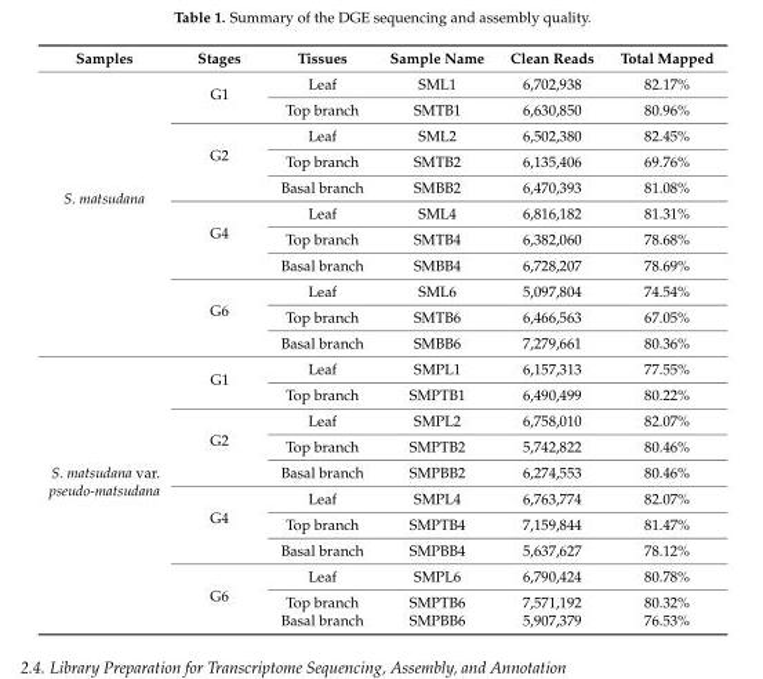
<table><thead><tr><td>Samples</td><td>Stages</td><td>Tissues</td><td>Sample Name</td><td>Clean Reads</td><td>Total Mapped</td></tr></thead><tbody><tr><td rowspan="11">S. matsudana</td><td rowspan="2">G1</td><td>Leaf</td><td>SML1</td><td>6,702,938</td><td>82.17%</td></tr><tr><td>Top branch</td><td>SMTB1</td><td>6,630,850</td><td>80.96%</td></tr><tr><td rowspan="3">G2</td><td>Leaf</td><td>SML2</td><td>6,502,380</td><td>82.45%</td></tr><tr><td>Top branch</td><td>SMTB2</td><td>6,135,406</td><td>69.76%</td></tr><tr><td>Basal branch</td><td>SMBB2</td><td>6,470,393</td><td>81.08%</td></tr><tr><td rowspan="3">G4</td><td>Leaf</td><td>SML4</td><td>6,816,182</td><td>81.31%</td></tr><tr><td>Top branch</td><td>SMTB4</td><td>6,382,060</td><td>78.68%</td></tr><tr><td>Basal branch</td><td>SMBB4</td><td>6,728,207</td><td>78.69%</td></tr><tr><td rowspan="3">G6</td><td>Leaf</td><td>SML6</td><td>5,097,804</td><td>74.54%</td></tr><tr><td>Top branch</td><td>SMTB6</td><td>6,466,563</td><td>67.05%</td></tr><tr><td>Basal branch</td><td>SMBB6</td><td>7,279,661</td><td>80.36%</td></tr><tr><td rowspan="11">S. matsudana var. pseudo-matsudana</td><td rowspan="2">G1</td><td>Leaf</td><td>SMPL1</td><td>6,157,313</td><td>77.55%</td></tr><tr><td>Top branch</td><td>SMPTB1</td><td>6,490,499</td><td>80.22%</td></tr><tr><td rowspan="3">G2</td><td>Leaf</td><td>SMPL2</td><td>6,758,010</td><td>82.07%</td></tr><tr><td>Top branch</td><td>SMPTB2</td><td>5,742,822</td><td>80.46%</td></tr><tr><td>Basal branch</td><td>SMPBB2</td><td>6,274,553</td><td>80.46%</td></tr><tr><td rowspan="3">G4</td><td>Leaf</td><td>SMPL4</td><td>6,763,774</td><td>82.07%</td></tr><tr><td>Top branch</td><td>SMPTB4</td><td>7,159,844</td><td>81.47%</td></tr><tr><td>Basal branch</td><td>SMPBB4</td><td>5,637,627</td><td>78.12%</td></tr><tr><td rowspan="3">G6</td><td>Leaf</td><td>SMPL6</td><td>6,790,424</td><td>80.78%</td></tr><tr><td>Top branch</td><td>SMPTB6</td><td>7,571,192</td><td>80.32%</td></tr><tr><td>Basal branch</td><td>SMPBB6</td><td>5,907,379</td><td>76.53%</td></tr></tbody></table>